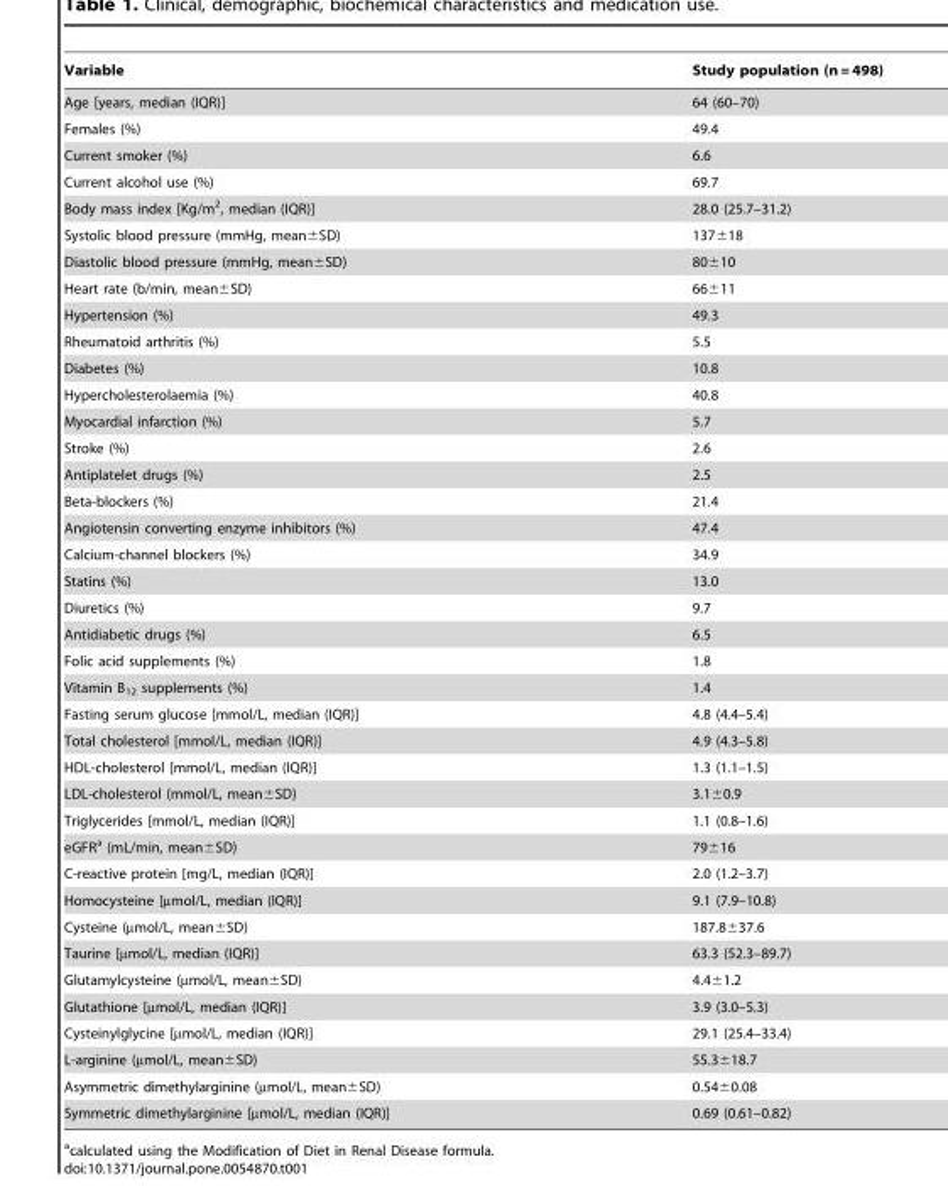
<table><thead><tr><td>Variable</td><td>Study population (n = 498)</td></tr></thead><tbody><tr><td>Age [years, median (IQR)]</td><td>64 (60–70)</td></tr><tr><td>Females (%)</td><td>49.4</td></tr><tr><td>Current smoker (%)</td><td>6.6</td></tr><tr><td>Current alcohol use (%)</td><td>69.7</td></tr><tr><td>Body mass index [Kg/m<sup>2</sup>, median (IQR)]</td><td>28.0 (25.7–31.2)</td></tr><tr><td>Systolic blood pressure (mmHg, mean±SD)</td><td>137±18</td></tr><tr><td>Diastolic blood pressure (mmHg, mean±SD)</td><td>80±10</td></tr><tr><td>Heart rate (b/min, mean±SD)</td><td>66±11</td></tr><tr><td>Hypertension (%)</td><td>49.3</td></tr><tr><td>Rheumatoid arthritis (%)</td><td>5.5</td></tr><tr><td>Diabetes (%)</td><td>10.8</td></tr><tr><td>Hypercholesterolaemia (%)</td><td>40.8</td></tr><tr><td>Myocardial infarction (%)</td><td>5.7</td></tr><tr><td>Stroke (%)</td><td>2.6</td></tr><tr><td>Antiplatelet drugs (%)</td><td>2.5</td></tr><tr><td>Beta-blockers (%)</td><td>21.4</td></tr><tr><td>Angiotensin converting enzyme inhibitors (%)</td><td>47.4</td></tr><tr><td>Calcium-channel blockers (%)</td><td>34.9</td></tr><tr><td>Statins (%)</td><td>13.0</td></tr><tr><td>Diuretics (%)</td><td>9.7</td></tr><tr><td>Antidiabetic drugs (%)</td><td>6.5</td></tr><tr><td>Folic acid supplements (%)</td><td>1.8</td></tr><tr><td>Vitamin B<sub>12</sub> supplements (%)</td><td>1.4</td></tr><tr><td>Fasting serum glucose [mmol/L, median (IQR)]</td><td>4.8 (4.4–5.4)</td></tr><tr><td>Total cholesterol [mmol/L, median (IQR)]</td><td>4.9 (4.3–5.8)</td></tr><tr><td>HDL-cholesterol [mmol/L, median (IQR)]</td><td>1.3 (1.1–1.5)</td></tr><tr><td>LDL-cholesterol (mmol/L, mean±SD)</td><td>3.1±0.9</td></tr><tr><td>Triglycerides [mmol/L, median (IQR)]</td><td>1.1 (0.8–1.6)</td></tr><tr><td>eGFR<sup>a</sup> (mL/min, mean±SD)</td><td>79±16</td></tr><tr><td>C-reactive protein [mg/L, median (IQR)]</td><td>2.0 (1.2–3.7)</td></tr><tr><td>Homocysteine [µmol/L, median (IQR)]</td><td>9.1 (7.9–10.8)</td></tr><tr><td>Cysteine (µmol/L, mean±SD)</td><td>187.8±37.6</td></tr><tr><td>Taurine [µmol/L, median (IQR)]</td><td>63.3 (52.3–89.7)</td></tr><tr><td>Glutamylcysteine (µmol/L, mean±SD)</td><td>4.4±1.2</td></tr><tr><td>Glutathione [µmol/L, median (IQR)]</td><td>3.9 (3.0–5.3)</td></tr><tr><td>Cysteinylglycine [µmol/L, median (IQR)]</td><td>29.1 (25.4–33.4)</td></tr><tr><td>L-arginine (µmol/L, mean±SD)</td><td>55.3±18.7</td></tr><tr><td>Asymmetric dimethylarginine (µmol/L, mean±SD)</td><td>0.54±0.08</td></tr><tr><td>Symmetric dimethylarginine [µmol/L, median (IQR)]</td><td>0.69 (0.61–0.82)</td></tr></tbody></table>